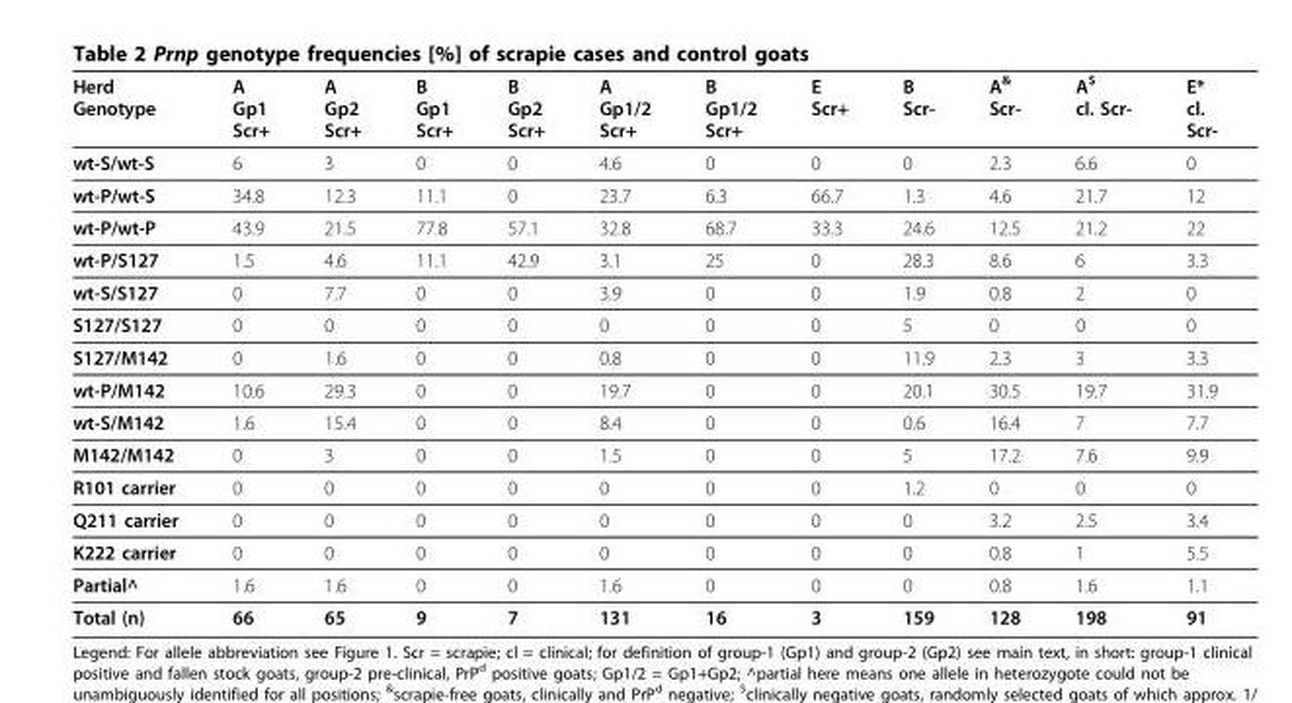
<table><thead><tr><td>Herd Genotype</td><td>A Gp1 Scr+</td><td>A Gp2 Scr+</td><td>B Gp1 Scr+</td><td>B Gp2 Scr+</td><td>A Gp1/2 Scr+</td><td>B Gp1/2 Scr+</td><td>E Scr+</td><td>B Scr-</td><td>A<sup>&amp;</sup> Scr-</td><td>A<sup>$</sup> cl. Scr-</td><td>E* cl. Scr-</td></tr></thead><tbody><tr><td>wt-S/wt-S</td><td>6</td><td>3</td><td>0</td><td>0</td><td>4.6</td><td>0</td><td>0</td><td>0</td><td>2.3</td><td>6.6</td><td>0</td></tr><tr><td>wt-P/wt-S</td><td>34.8</td><td>12.3</td><td>11.1</td><td>0</td><td>23.7</td><td>6.3</td><td>66.7</td><td>1.3</td><td>4.6</td><td>21.7</td><td>12</td></tr><tr><td>wt-P/wt-P</td><td>43.9</td><td>21.5</td><td>77.8</td><td>57.1</td><td>32.8</td><td>68.7</td><td>33.3</td><td>24.6</td><td>12.5</td><td>21.2</td><td>22</td></tr><tr><td>wt-P/S127</td><td>1.5</td><td>4.6</td><td>11.1</td><td>42.9</td><td>3.1</td><td>25</td><td>0</td><td>28.3</td><td>8.6</td><td>6</td><td>3.3</td></tr><tr><td>wt-S/S127</td><td>0</td><td>7.7</td><td>0</td><td>0</td><td>3.9</td><td>0</td><td>0</td><td>1.9</td><td>0.8</td><td>2</td><td>0</td></tr><tr><td>S127/S127</td><td>0</td><td>0</td><td>0</td><td>0</td><td>0</td><td>0</td><td>0</td><td>5</td><td>0</td><td>0</td><td>0</td></tr><tr><td>S127/M142</td><td>0</td><td>1.6</td><td>0</td><td>0</td><td>0.8</td><td>0</td><td>0</td><td>11.9</td><td>2.3</td><td>3</td><td>3.3</td></tr><tr><td>wt-P/M142</td><td>10.6</td><td>29.3</td><td>0</td><td>0</td><td>19.7</td><td>0</td><td>0</td><td>20.1</td><td>30.5</td><td>19.7</td><td>31.9</td></tr><tr><td>wt-S/M142</td><td>1.6</td><td>15.4</td><td>0</td><td>0</td><td>8.4</td><td>0</td><td>0</td><td>0.6</td><td>16.4</td><td>7</td><td>7.7</td></tr><tr><td>M142/M142</td><td>0</td><td>3</td><td>0</td><td>0</td><td>1.5</td><td>0</td><td>0</td><td>5</td><td>17.2</td><td>7.6</td><td>9.9</td></tr><tr><td>R101 carrier</td><td>0</td><td>0</td><td>0</td><td>0</td><td>0</td><td>0</td><td>0</td><td>1.2</td><td>0</td><td>0</td><td>0</td></tr><tr><td>Q211 carrier</td><td>0</td><td>0</td><td>0</td><td>0</td><td>0</td><td>0</td><td>0</td><td>0</td><td>3.2</td><td>2.5</td><td>3.4</td></tr><tr><td>K222 carrier</td><td>0</td><td>0</td><td>0</td><td>0</td><td>0</td><td>0</td><td>0</td><td>0</td><td>0.8</td><td>1</td><td>5.5</td></tr><tr><td>Partial^</td><td>1.6</td><td>1.6</td><td>0</td><td>0</td><td>1.6</td><td>0</td><td>0</td><td>0</td><td>0.8</td><td>1.6</td><td>1.1</td></tr><tr><td>Total (n)</td><td>66</td><td>65</td><td>9</td><td>7</td><td>131</td><td>16</td><td>3</td><td>159</td><td>128</td><td>198</td><td>91</td></tr></tbody></table>